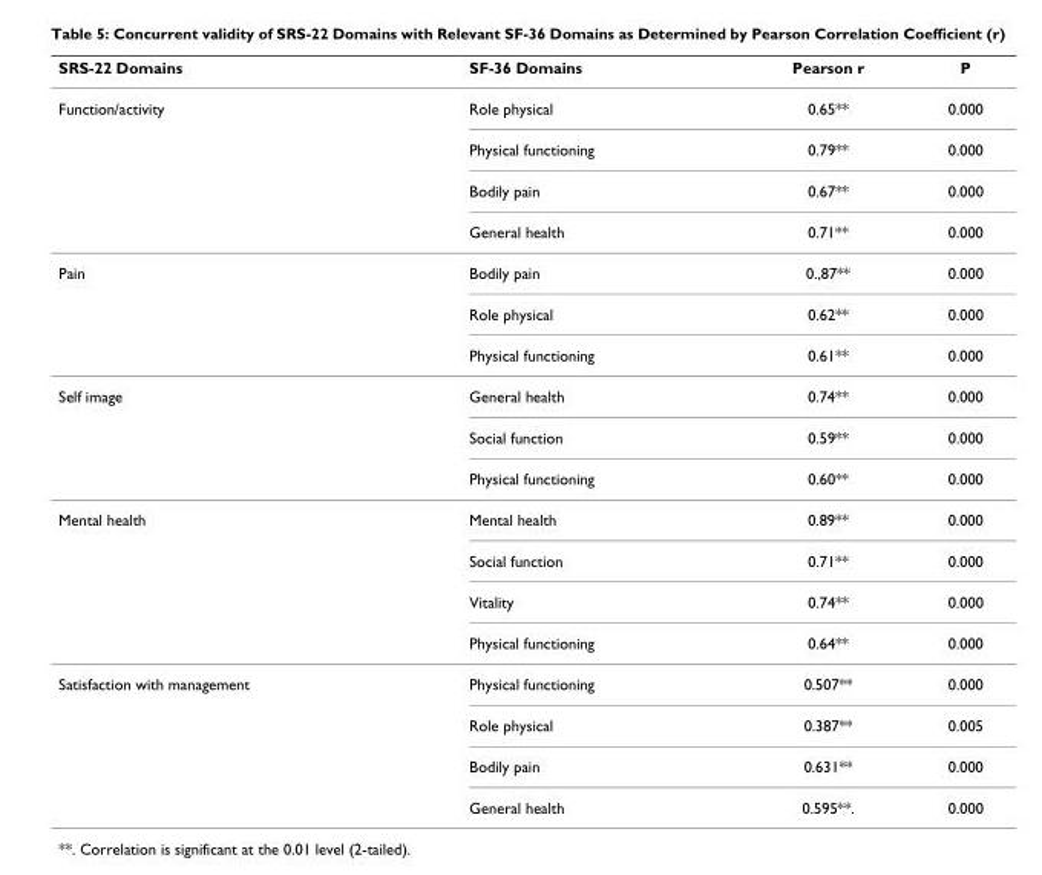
<table><thead><tr><td>SRS-22 Domains</td><td>SF-36 Domains</td><td>Pearson r</td><td>P</td></tr></thead><tbody><tr><td rowspan="4">Function/activity</td><td>Role physical</td><td>0.65**</td><td>0.000</td></tr><tr><td>Physical functioning</td><td>0.79**</td><td>0.000</td></tr><tr><td>Bodily pain</td><td>0.67**</td><td>0.000</td></tr><tr><td>General health</td><td>0.71**</td><td>0.000</td></tr><tr><td rowspan="3">Pain</td><td>Bodily pain</td><td>0.,87**</td><td>0.000</td></tr><tr><td>Role physical</td><td>0.62**</td><td>0.000</td></tr><tr><td>Physical functioning</td><td>0.61**</td><td>0.000</td></tr><tr><td rowspan="3">Self image</td><td>General health</td><td>0.74**</td><td>0.000</td></tr><tr><td>Social function</td><td>0.59**</td><td>0.000</td></tr><tr><td>Physical functioning</td><td>0.60**</td><td>0.000</td></tr><tr><td rowspan="4">Mental health</td><td>Mental health</td><td>0.89**</td><td>0.000</td></tr><tr><td>Social function</td><td>0.71**</td><td>0.000</td></tr><tr><td>Vitality</td><td>0.74**</td><td>0.000</td></tr><tr><td>Physical functioning</td><td>0.64**</td><td>0.000</td></tr><tr><td rowspan="4">Satisfaction with management</td><td>Physical functioning</td><td>0.507**</td><td>0.000</td></tr><tr><td>Role physical</td><td>0.387**</td><td>0.005</td></tr><tr><td>Bodily pain</td><td>0.631**</td><td>0.000</td></tr><tr><td>General health</td><td>0.595**.</td><td>0.000</td></tr></tbody></table>